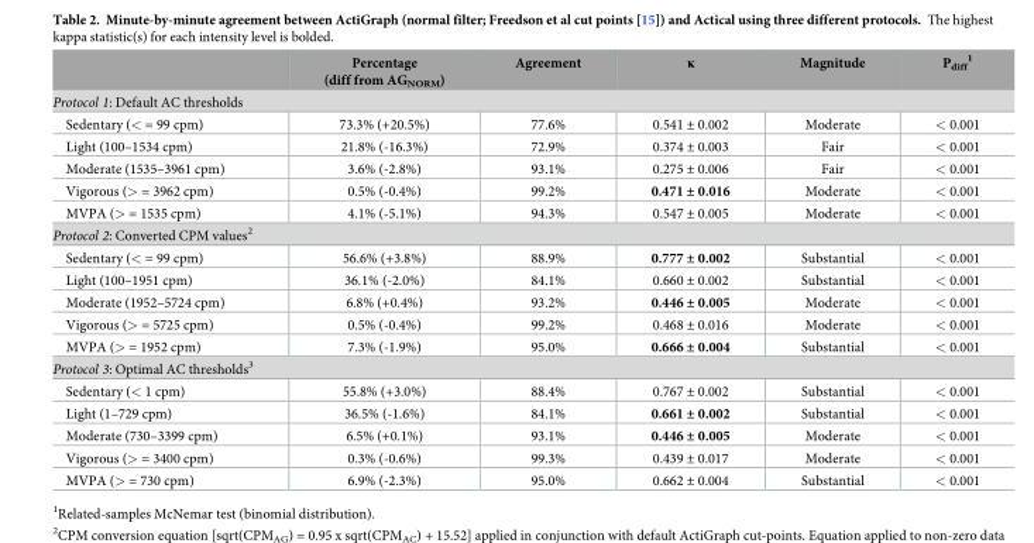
<table><thead><tr><td></td><td>Percentage (diff from AG<sub>NORM</sub>)</td><td>Agreement</td><td>κ</td><td>Magnitude</td><td>P<sub>diff</sub> <sup>1</sup></td></tr></thead><tbody><tr><td colspan="6">Protocol 1: Default AC thresholds</td></tr><tr><td>Sedentary (&lt; = 99 cpm)</td><td>73.3% (+20.5%)</td><td>77.6%</td><td>0.541 ± 0.002</td><td>Moderate</td><td>&lt; 0.001</td></tr><tr><td>Light (100–1534 cpm)</td><td>21.8% (-16.3%)</td><td>72.9%</td><td>0.374 ± 0.003</td><td>Fair</td><td>&lt; 0.001</td></tr><tr><td>Moderate (1535–3961 cpm)</td><td>3.6% (-2.8%)</td><td>93.1%</td><td>0.275 ± 0.006</td><td>Fair</td><td>&lt; 0.001</td></tr><tr><td>Vigorous (&gt; = 3962 cpm)</td><td>0.5% (-0.4%)</td><td>99.2%</td><td>0.471 ± 0.016</td><td>Moderate</td><td>&lt; 0.001</td></tr><tr><td>MVPA (&gt; = 1535 cpm)</td><td>4.1% (-5.1%)</td><td>94.3%</td><td>0.547 ± 0.005</td><td>Moderate</td><td>&lt; 0.001</td></tr><tr><td colspan="6">Protocol 2: Converted CPM values<sup>2</sup></td></tr><tr><td>Sedentary (&lt; = 99 cpm)</td><td>56.6% (+3.8%)</td><td>88.9%</td><td>0.777 ± 0.002</td><td>Substantial</td><td>&lt; 0.001</td></tr><tr><td>Light (100–1951 cpm)</td><td>36.1% (-2.0%)</td><td>84.1%</td><td>0.660 ± 0.002</td><td>Substantial</td><td>&lt; 0.001</td></tr><tr><td>Moderate (1952–5724 cpm)</td><td>6.8% (+0.4%)</td><td>93.2%</td><td>0.446 ± 0.005</td><td>Moderate</td><td>&lt; 0.001</td></tr><tr><td>Vigorous (&gt; = 5725 cpm)</td><td>0.5% (-0.4%)</td><td>99.2%</td><td>0.468 ± 0.016</td><td>Moderate</td><td>&lt; 0.001</td></tr><tr><td>MVPA (&gt; = 1952 cpm)</td><td>7.3% (-1.9%)</td><td>95.0%</td><td>0.666 ± 0.004</td><td>Substantial</td><td>&lt; 0.001</td></tr><tr><td colspan="6">Protocol 3: Optimal AC thresholds<sup>3</sup></td></tr><tr><td>Sedentary (&lt; 1 cpm)</td><td>55.8% (+3.0%)</td><td>88.4%</td><td>0.767 ± 0.002</td><td>Substantial</td><td>&lt; 0.001</td></tr><tr><td>Light (1–729 cpm)</td><td>36.5% (-1.6%)</td><td>84.1%</td><td>0.661 ± 0.002</td><td>Substantial</td><td>&lt; 0.001</td></tr><tr><td>Moderate (730–3399 cpm)</td><td>6.5% (+0.1%)</td><td>93.1%</td><td>0.446 ± 0.005</td><td>Moderate</td><td>&lt; 0.001</td></tr><tr><td>Vigorous (&gt; = 3400 cpm)</td><td>0.3% (-0.6%)</td><td>99.3%</td><td>0.439 ± 0.017</td><td>Moderate</td><td>&lt; 0.001</td></tr><tr><td>MVPA (&gt; = 730 cpm)</td><td>6.9% (-2.3%)</td><td>95.0%</td><td>0.662 ± 0.004</td><td>Substantial</td><td>&lt; 0.001</td></tr></tbody></table>